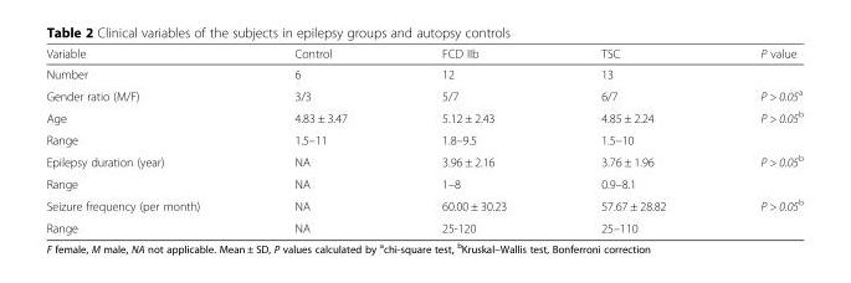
<table><thead><tr><td>Variable</td><td>Control</td><td>FCD IIb</td><td>TSC</td><td>P value</td></tr></thead><tbody><tr><td>Number</td><td>6</td><td>12</td><td>13</td><td></td></tr><tr><td>Gender ratio (M/F)</td><td>3/3</td><td>5/7</td><td>6/7</td><td>P &gt; 0.05<sup>a</sup></td></tr><tr><td>Age</td><td>4.83 ± 3.47</td><td>5.12 ± 2.43</td><td>4.85 ± 2.24</td><td>P &gt; 0.05<sup>b</sup></td></tr><tr><td>Range</td><td>1.5–11</td><td>1.8–9.5</td><td>1.5–10</td><td></td></tr><tr><td>Epilepsy duration (year)</td><td>NA</td><td>3.96 ± 2.16</td><td>3.76 ± 1.96</td><td>P &gt; 0.05<sup>b</sup></td></tr><tr><td>Range</td><td>NA</td><td>1–8</td><td>0.9–8.1</td><td></td></tr><tr><td>Seizure frequency (per month)</td><td>NA</td><td>60.00 ± 30.23</td><td>57.67 ± 28.82</td><td>P &gt; 0.05<sup>b</sup></td></tr><tr><td>Range</td><td>NA</td><td>25-120</td><td>25–110</td><td></td></tr></tbody></table>